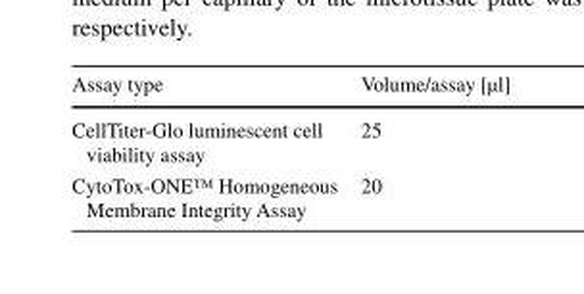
<table><thead><tr><td>Assay type</td><td>Volume/assay [µl]</td></tr></thead><tbody><tr><td>CellTiter-Glo luminescent cell viability assay</td><td>25</td></tr><tr><td>CytoTox-ONE™ Homogeneous Membrane Integrity Assay</td><td>20</td></tr></tbody></table>